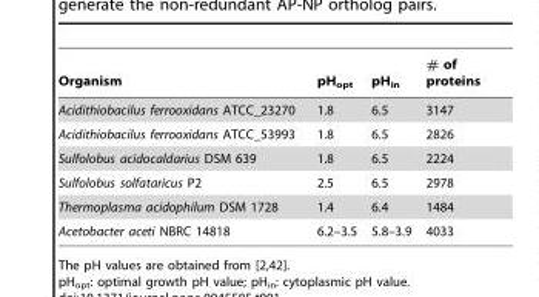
<table><thead><tr><td>Organism</td><td>pH<sub>opt</sub></td><td>pH<sub>in</sub></td><td># of proteins</td></tr></thead><tbody><tr><td>Acidithiobacilus ferrooxidans ATCC_23270</td><td>1.8</td><td>6.5</td><td>3147</td></tr><tr><td>Acidithiobacilus ferrooxidans ATCC_53993</td><td>1.8</td><td>6.5</td><td>2826</td></tr><tr><td>Sulfolobus acidocaldarius DSM 639</td><td>1.8</td><td>6.5</td><td>2224</td></tr><tr><td>Sulfolobus solfataricus P2</td><td>2.5</td><td>6.5</td><td>2978</td></tr><tr><td>Thermoplasma acidophilum DSM 1728</td><td>1.4</td><td>6.4</td><td>1484</td></tr><tr><td>Acetobacter aceti NBRC 14818</td><td>6.2–3.5</td><td>5.8–3.9</td><td>4033</td></tr></tbody></table>